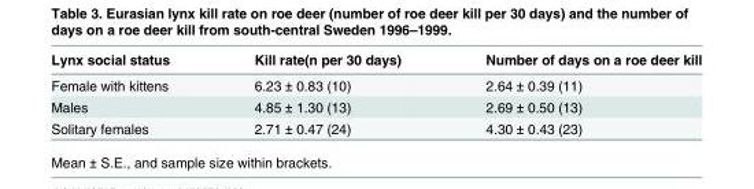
<table><thead><tr><td>Lynx social status</td><td>Kill rate(n per 30 days)</td><td>Number of days on a roe deer kill</td></tr></thead><tbody><tr><td>Female with kittens</td><td>6.23 ± 0.83 (10)</td><td>2.64 ± 0.39 (11)</td></tr><tr><td>Males</td><td>4.85 ± 1.30 (13)</td><td>2.69 ± 0.50 (13)</td></tr><tr><td>Solitary females</td><td>2.71 ± 0.47 (24)</td><td>4.30 ± 0.43 (23)</td></tr></tbody></table>